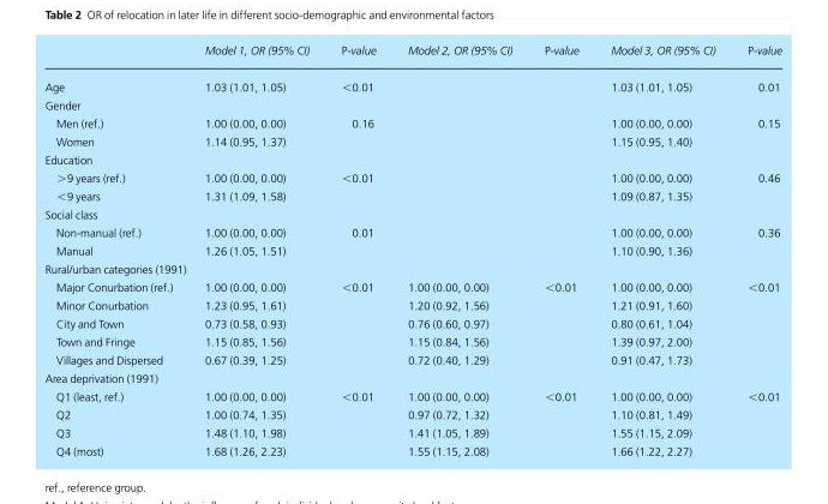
<table><thead><tr><td></td><td>Model 1, OR (95% CI)</td><td>P-value</td><td>Model 2, OR (95% CI)</td><td>P-value</td><td>Model 3, OR (95% CI)</td><td>P-value</td></tr></thead><tbody><tr><td>Age</td><td>1.03 (1.01, 1.05)</td><td>&lt;0.01</td><td></td><td></td><td>1.03 (1.01, 1.05)</td><td>0.01</td></tr><tr><td colspan="7">Gender</td></tr><tr><td>Men (ref.)</td><td>1.00 (0.00, 0.00)</td><td>0.16</td><td></td><td></td><td>1.00 (0.00, 0.00)</td><td>0.15</td></tr><tr><td>Women</td><td>1.14 (0.95, 1.37)</td><td></td><td></td><td></td><td>1.15 (0.95, 1.40)</td><td></td></tr><tr><td colspan="7">Education</td></tr><tr><td>&gt;9 years (ref.)</td><td>1.00 (0.00, 0.00)</td><td>&lt;0.01</td><td></td><td></td><td>1.00 (0.00, 0.00)</td><td>0.46</td></tr><tr><td>&lt;9 years</td><td>1.31 (1.09, 1.58)</td><td></td><td></td><td></td><td>1.09 (0.87, 1.35)</td><td></td></tr><tr><td colspan="7">Social class</td></tr><tr><td>Non-manual (ref.)</td><td>1.00 (0.00, 0.00)</td><td>0.01</td><td></td><td></td><td>1.00 (0.00, 0.00)</td><td>0.36</td></tr><tr><td>Manual</td><td>1.26 (1.05, 1.51)</td><td></td><td></td><td></td><td>1.10 (0.90, 1.36)</td><td></td></tr><tr><td colspan="7">Rural/urban categories (1991)</td></tr><tr><td>Major Conurbation (ref.)</td><td>1.00 (0.00, 0.00)</td><td>&lt;0.01</td><td>1.00 (0.00, 0.00)</td><td>&lt;0.01</td><td>1.00 (0.00, 0.00)</td><td>&lt;0.01</td></tr><tr><td>Minor Conurbation</td><td>1.23 (0.95, 1.61)</td><td></td><td>1.20 (0.92, 1.56)</td><td></td><td>1.21 (0.91, 1.60)</td><td></td></tr><tr><td>City and Town</td><td>0.73 (0.58, 0.93)</td><td></td><td>0.76 (0.60, 0.97)</td><td></td><td>0.80 (0.61, 1.04)</td><td></td></tr><tr><td>Town and Fringe</td><td>1.15 (0.85, 1.56)</td><td></td><td>1.15 (0.84, 1.56)</td><td></td><td>1.39 (0.97, 2.00)</td><td></td></tr><tr><td>Villages and Dispersed</td><td>0.67 (0.39, 1.25)</td><td></td><td>0.72 (0.40, 1.29)</td><td></td><td>0.91 (0.47, 1.73)</td><td></td></tr><tr><td colspan="7">Area deprivation (1991)</td></tr><tr><td>Q1 (least, ref.)</td><td>1.00 (0.00, 0.00)</td><td>&lt;0.01</td><td>1.00 (0.00, 0.00)</td><td>&lt;0.01</td><td>1.00 (0.00, 0.00)</td><td>&lt;0.01</td></tr><tr><td>Q2</td><td>1.00 (0.74, 1.35)</td><td></td><td>0.97 (0.72, 1.32)</td><td></td><td>1.10 (0.81, 1.49)</td><td></td></tr><tr><td>Q3</td><td>1.48 (1.10, 1.98)</td><td></td><td>1.41 (1.05, 1.89)</td><td></td><td>1.55 (1.15, 2.09)</td><td></td></tr><tr><td>Q4 (most)</td><td>1.68 (1.26, 2.23)</td><td></td><td>1.55 (1.15, 2.08)</td><td></td><td>1.66 (1.22, 2.27)</td><td></td></tr></tbody></table>